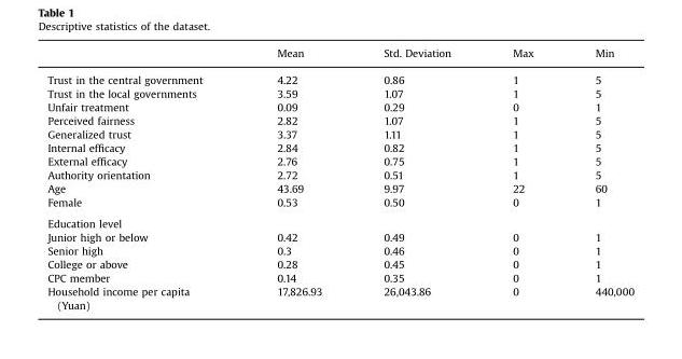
<table><thead><tr><td></td><td>Mean</td><td>Std. Deviation</td><td>Max</td><td>Min</td></tr></thead><tbody><tr><td>Trust in the central government</td><td>4.22</td><td>0.86</td><td>1</td><td>5</td></tr><tr><td>Trust in the local governments</td><td>3.59</td><td>1.07</td><td>1</td><td>5</td></tr><tr><td>Unfair treatment</td><td>0.09</td><td>0.29</td><td>0</td><td>1</td></tr><tr><td>Perceived fairness</td><td>2.82</td><td>1.07</td><td>1</td><td>5</td></tr><tr><td>Generalized trust</td><td>3.37</td><td>1.11</td><td>1</td><td>5</td></tr><tr><td>Internal efficacy</td><td>2.84</td><td>0.82</td><td>1</td><td>5</td></tr><tr><td>External efficacy</td><td>2.76</td><td>0.75</td><td>1</td><td>5</td></tr><tr><td>Authority orientation</td><td>2.72</td><td>0.51</td><td>1</td><td>5</td></tr><tr><td>Age</td><td>43.69</td><td>9.97</td><td>22</td><td>60</td></tr><tr><td>Female</td><td>0.53</td><td>0.50</td><td>0</td><td>1</td></tr><tr><td colspan="5">Education level</td></tr><tr><td>Junior high or below</td><td>0.42</td><td>0.49</td><td>0</td><td>1</td></tr><tr><td>Senior high</td><td>0.3</td><td>0.46</td><td>0</td><td>1</td></tr><tr><td>College or above</td><td>0.28</td><td>0.45</td><td>0</td><td>1</td></tr><tr><td>CPC member</td><td>0.14</td><td>0.35</td><td>0</td><td>1</td></tr><tr><td>Household income per capita (Yuan)</td><td>17,826.93</td><td>26,043.86</td><td>0</td><td>440,000</td></tr></tbody></table>